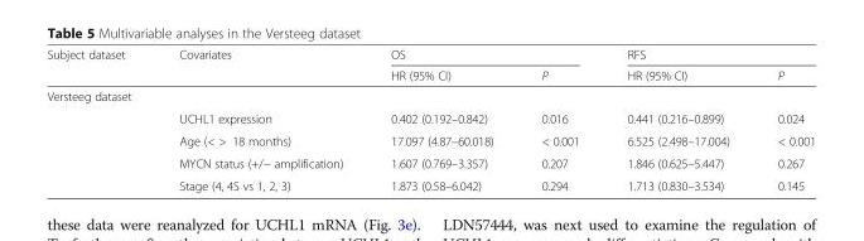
<table><thead><tr><td rowspan="2">Subject dataset</td><td rowspan="2">Covariates</td><td colspan="2">OS</td><td colspan="2">RFS</td></tr><tr><td>HR (95% CI)</td><td>P</td><td>HR (95% CI)</td><td>P</td></tr></thead><tbody><tr><td colspan="6">Versteeg dataset</td></tr><tr><td></td><td>UCHL1 expression</td><td>0.402 (0.192–0.842)</td><td>0.016</td><td>0.441 (0.216–0.899)</td><td>0.024</td></tr><tr><td></td><td>Age (&lt; &gt; 18 months)</td><td>17.097 (4.87–60.018)</td><td>&lt; 0.001</td><td>6.525 (2.498–17.004)</td><td>&lt; 0.001</td></tr><tr><td></td><td>MYCN status (+/− amplification)</td><td>1.607 (0.769–3.357)</td><td>0.207</td><td>1.846 (0.625–5.447)</td><td>0.267</td></tr><tr><td></td><td>Stage (4, 4S vs 1, 2, 3)</td><td>1.873 (0.58–6.042)</td><td>0.294</td><td>1.713 (0.830–3.534)</td><td>0.145</td></tr></tbody></table>